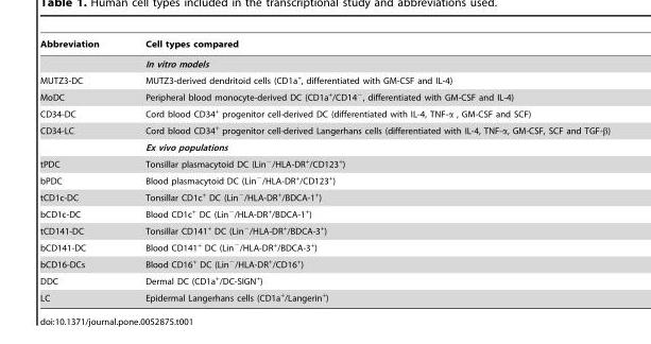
<table><thead><tr><td>Abbreviation</td><td>Cell types compared</td></tr></thead><tbody><tr><td></td><td>In vitro models</td></tr><tr><td>MUTZ3-DC</td><td>MUTZ3-derived dendritoid cells (CD1a<sup>+</sup>, differentiated with GM-CSF and IL-4)</td></tr><tr><td>MoDC</td><td>Peripheral blood monocyte-derived DC (CD1a<sup>+</sup>/CD14<sup>−</sup>, differentiated with GM-CSF and IL-4)</td></tr><tr><td>CD34-DC</td><td>Cord blood CD34<sup>+</sup> progenitor cell-derived DC (differentiated with IL-4, TNF-α , GM-CSF and SCF)</td></tr><tr><td rowspan="2">CD34-LC</td><td>Cord blood CD34<sup>+</sup> progenitor cell-derived Langerhans cells (differentiated with IL-4, TNF-α, GM-CSF, SCF and TGF-β)</td></tr><tr><td>Ex vivo populations</td></tr><tr><td>tPDC</td><td>Tonsillar plasmacytoid DC (Lin<sup>−</sup>/HLA-DR<sup>+</sup>/CD123<sup>+</sup>)</td></tr><tr><td>bPDC</td><td>Blood plasmacytoid DC (Lin<sup>−</sup>/HLA-DR<sup>+</sup>/CD123<sup>+</sup>)</td></tr><tr><td>tCD1c-DC</td><td>Tonsillar CD1c<sup>+</sup> DC (Lin<sup>−</sup>/HLA-DR<sup>+</sup>/BDCA-1<sup>+</sup>)</td></tr><tr><td>bCD1c-DC</td><td>Blood CD1c<sup>+</sup> DC (Lin<sup>−</sup>/HLA-DR<sup>+</sup>/BDCA-1<sup>+</sup>)</td></tr><tr><td>tCD141-DC</td><td>Tonsillar CD141<sup>+</sup> DC (Lin<sup>−</sup>/HLA-DR<sup>+</sup>/BDCA-3<sup>+</sup>)</td></tr><tr><td>bCD141-DC</td><td>Blood CD141<sup>+</sup> DC (Lin<sup>−</sup>/HLA-DR<sup>+</sup>/BDCA-3<sup>+</sup>)</td></tr><tr><td>bCD16-DCs</td><td>Blood CD16<sup>+</sup> DC (Lin<sup>−</sup>/HLA-DR<sup>+</sup>/CD16<sup>+</sup>)</td></tr><tr><td>DDC</td><td>Dermal DC (CD1a<sup>+</sup>/DC-SIGN<sup>+</sup>)</td></tr><tr><td>LC</td><td>Epidermal Langerhans cells (CD1a<sup>+</sup>/Langerin<sup>+</sup>)</td></tr></tbody></table>